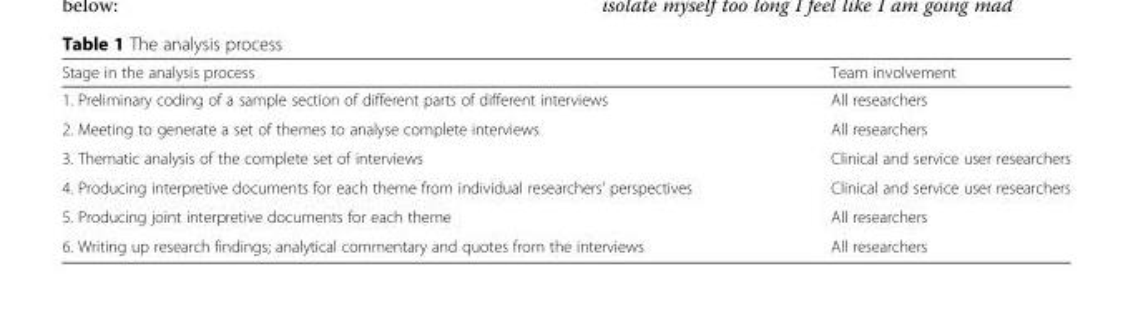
<table><thead><tr><td>Stage in the analysis process</td><td>Team involvement</td></tr></thead><tbody><tr><td>1. Preliminary coding of a sample section of different parts of different interviews</td><td>All researchers</td></tr><tr><td>2. Meeting to generate a set of themes to analyse complete interviews</td><td>All researchers</td></tr><tr><td>3. Thematic analysis of the complete set of interviews</td><td>Clinical and service user researchers</td></tr><tr><td>4. Producing interpretive documents for each theme from individual researchers’ perspectives</td><td>Clinical and service user researchers</td></tr><tr><td>5. Producing joint interpretive documents for each theme</td><td>All researchers</td></tr><tr><td>6. Writing up research findings; analytical commentary and quotes from the interviews</td><td>All researchers</td></tr></tbody></table>